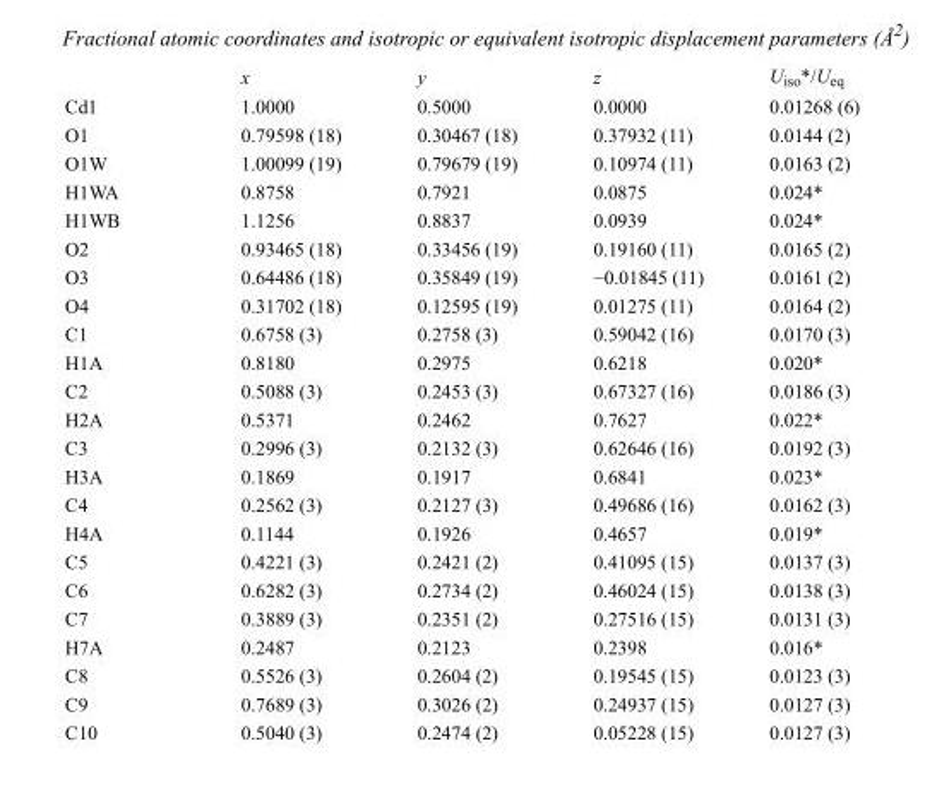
<table><thead><tr><td></td><td>x</td><td>y</td><td>z</td><td>U<sub>iso</sub>*/U<sub>eq</sub></td></tr></thead><tbody><tr><td>Cd1</td><td>1.0000</td><td>0.5000</td><td>0.0000</td><td>0.01268 (6)</td></tr><tr><td>O1</td><td>0.79598 (18)</td><td>0.30467 (18)</td><td>0.37932 (11)</td><td>0.0144 (2)</td></tr><tr><td>O1W</td><td>1.00099 (19)</td><td>0.79679 (19)</td><td>0.10974 (11)</td><td>0.0163 (2)</td></tr><tr><td>H1WA</td><td>0.8758</td><td>0.7921</td><td>0.0875</td><td>0.024*</td></tr><tr><td>H1WB</td><td>1.1256</td><td>0.8837</td><td>0.0939</td><td>0.024*</td></tr><tr><td>O2</td><td>0.93465 (18)</td><td>0.33456 (19)</td><td>0.19160 (11)</td><td>0.0165 (2)</td></tr><tr><td>O3</td><td>0.64486 (18)</td><td>0.35849 (19)</td><td>−0.01845 (11)</td><td>0.0161 (2)</td></tr><tr><td>O4</td><td>0.31702 (18)</td><td>0.12595 (19)</td><td>0.01275 (11)</td><td>0.0164 (2)</td></tr><tr><td>C1</td><td>0.6758 (3)</td><td>0.2758 (3)</td><td>0.59042 (16)</td><td>0.0170 (3)</td></tr><tr><td>H1A</td><td>0.8180</td><td>0.2975</td><td>0.6218</td><td>0.020*</td></tr><tr><td>C2</td><td>0.5088 (3)</td><td>0.2453 (3)</td><td>0.67327 (16)</td><td>0.0186 (3)</td></tr><tr><td>H2A</td><td>0.5371</td><td>0.2462</td><td>0.7627</td><td>0.022*</td></tr><tr><td>C3</td><td>0.2996 (3)</td><td>0.2132 (3)</td><td>0.62646 (16)</td><td>0.0192 (3)</td></tr><tr><td>H3A</td><td>0.1869</td><td>0.1917</td><td>0.6841</td><td>0.023*</td></tr><tr><td>C4</td><td>0.2562 (3)</td><td>0.2127 (3)</td><td>0.49686 (16)</td><td>0.0162 (3)</td></tr><tr><td>H4A</td><td>0.1144</td><td>0.1926</td><td>0.4657</td><td>0.019*</td></tr><tr><td>C5</td><td>0.4221 (3)</td><td>0.2421 (2)</td><td>0.41095 (15)</td><td>0.0137 (3)</td></tr><tr><td>C6</td><td>0.6282 (3)</td><td>0.2734 (2)</td><td>0.46024 (15)</td><td>0.0138 (3)</td></tr><tr><td>C7</td><td>0.3889 (3)</td><td>0.2351 (2)</td><td>0.27516 (15)</td><td>0.0131 (3)</td></tr><tr><td>H7A</td><td>0.2487</td><td>0.2123</td><td>0.2398</td><td>0.016*</td></tr><tr><td>C8</td><td>0.5526 (3)</td><td>0.2604 (2)</td><td>0.19545 (15)</td><td>0.0123 (3)</td></tr><tr><td>C9</td><td>0.7689 (3)</td><td>0.3026 (2)</td><td>0.24937 (15)</td><td>0.0127 (3)</td></tr><tr><td>C10</td><td>0.5040 (3)</td><td>0.2474 (2)</td><td>0.05228 (15)</td><td>0.0127 (3)</td></tr></tbody></table>